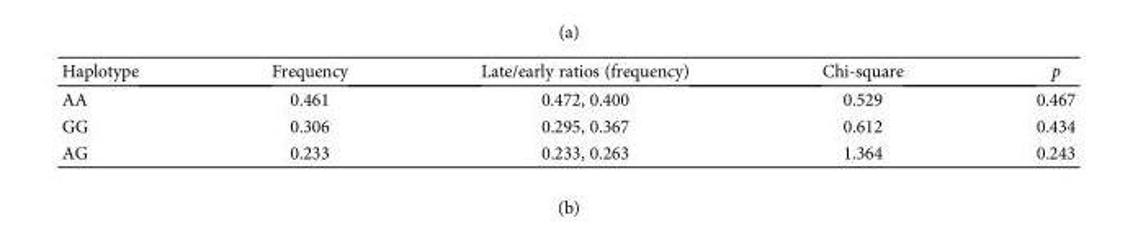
<table><thead><tr><td>Haplotype</td><td>Frequency</td><td>Late/early ratios (frequency)</td><td>Chi-square</td><td>p</td></tr></thead><tbody><tr><td>AA</td><td>0.461</td><td>0.472, 0.400</td><td>0.529</td><td>0.467</td></tr><tr><td>GG</td><td>0.306</td><td>0.295, 0.367</td><td>0.612</td><td>0.434</td></tr><tr><td>AG</td><td>0.233</td><td>0.233, 0.263</td><td>1.364</td><td>0.243</td></tr></tbody></table>